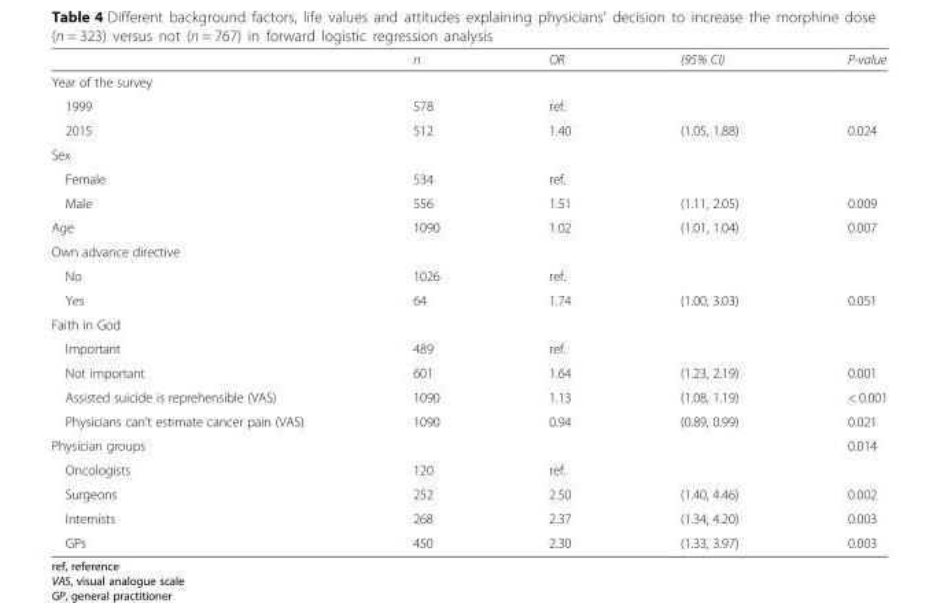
<table><thead><tr><td></td><td>n</td><td>OR</td><td>(95% CI)</td><td>P-value</td></tr></thead><tbody><tr><td colspan="5">Year of the survey</td></tr><tr><td>1999</td><td>578</td><td>ref.</td><td></td><td></td></tr><tr><td>2015</td><td>512</td><td>1.40</td><td>(1.05, 1.88)</td><td>0.024</td></tr><tr><td colspan="5">Sex</td></tr><tr><td>Female</td><td>534</td><td>ref.</td><td></td><td></td></tr><tr><td>Male</td><td>556</td><td>1.51</td><td>(1.11, 2.05)</td><td>0.009</td></tr><tr><td>Age</td><td>1090</td><td>1.02</td><td>(1.01, 1.04)</td><td>0.007</td></tr><tr><td colspan="5">Own advance directive</td></tr><tr><td>No</td><td>1026</td><td>ref.</td><td></td><td></td></tr><tr><td>Yes</td><td>64</td><td>1.74</td><td>(1.00, 3.03)</td><td>0.051</td></tr><tr><td colspan="5">Faith in God</td></tr><tr><td>Important</td><td>489</td><td>ref.</td><td></td><td></td></tr><tr><td>Not important</td><td>601</td><td>1.64</td><td>(1.23, 2.19)</td><td>0.001</td></tr><tr><td>Assisted suicide is reprehensible (VAS)</td><td>1090</td><td>1.13</td><td>(1.08, 1.19)</td><td>&lt; 0.001</td></tr><tr><td>Physicians can’t estimate cancer pain (VAS)</td><td>1090</td><td>0.94</td><td>(0.89, 0.99)</td><td>0.021</td></tr><tr><td>Physician groups</td><td></td><td></td><td></td><td>0.014</td></tr><tr><td>Oncologists</td><td>120</td><td>ref.</td><td></td><td></td></tr><tr><td>Surgeons</td><td>252</td><td>2.50</td><td>(1.40, 4.46)</td><td>0.002</td></tr><tr><td>Internists</td><td>268</td><td>2.37</td><td>(1.34, 4.20)</td><td>0.003</td></tr><tr><td>GPs</td><td>450</td><td>2.30</td><td>(1.33, 3.97)</td><td>0.003</td></tr></tbody></table>